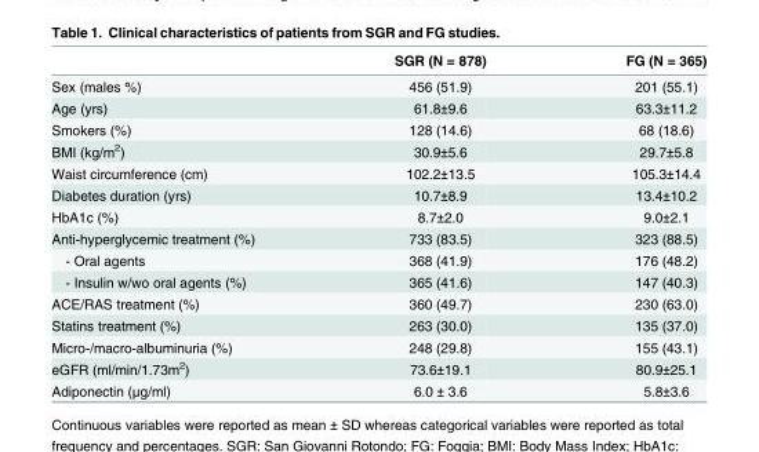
<table><thead><tr><td></td><td>SGR (N = 878)</td><td>FG (N = 365)</td></tr></thead><tbody><tr><td>Sex (males %)</td><td>456 (51.9)</td><td>201 (55.1)</td></tr><tr><td>Age (yrs)</td><td>61.8±9.6</td><td>63.3±11.2</td></tr><tr><td>Smokers (%)</td><td>128 (14.6)</td><td>68 (18.6)</td></tr><tr><td>BMI (kg/m<sup>2</sup>)</td><td>30.9±5.6</td><td>29.7±5.8</td></tr><tr><td>Waist circumference (cm)</td><td>102.2±13.5</td><td>105.3±14.4</td></tr><tr><td>Diabetes duration (yrs)</td><td>10.7±8.9</td><td>13.4±10.2</td></tr><tr><td>HbA1c (%)</td><td>8.7±2.0</td><td>9.0±2.1</td></tr><tr><td>Anti-hyperglycemic treatment (%)</td><td>733 (83.5)</td><td>323 (88.5)</td></tr><tr><td>- Oral agents</td><td>368 (41.9)</td><td>176 (48.2)</td></tr><tr><td>- Insulin w/wo oral agents (%)</td><td>365 (41.6)</td><td>147 (40.3)</td></tr><tr><td>ACE/RAS treatment (%)</td><td>360 (49.7)</td><td>230 (63.0)</td></tr><tr><td>Statins treatment (%)</td><td>263 (30.0)</td><td>135 (37.0)</td></tr><tr><td>Micro-/macro-albuminuria (%)</td><td>248 (29.8)</td><td>155 (43.1)</td></tr><tr><td>eGFR (ml/min/1.73m<sup>2</sup>)</td><td>73.6±19.1</td><td>80.9±25.1</td></tr><tr><td>Adiponectin (μg/ml)</td><td>6.0 ± 3.6</td><td>5.8±3.6</td></tr></tbody></table>